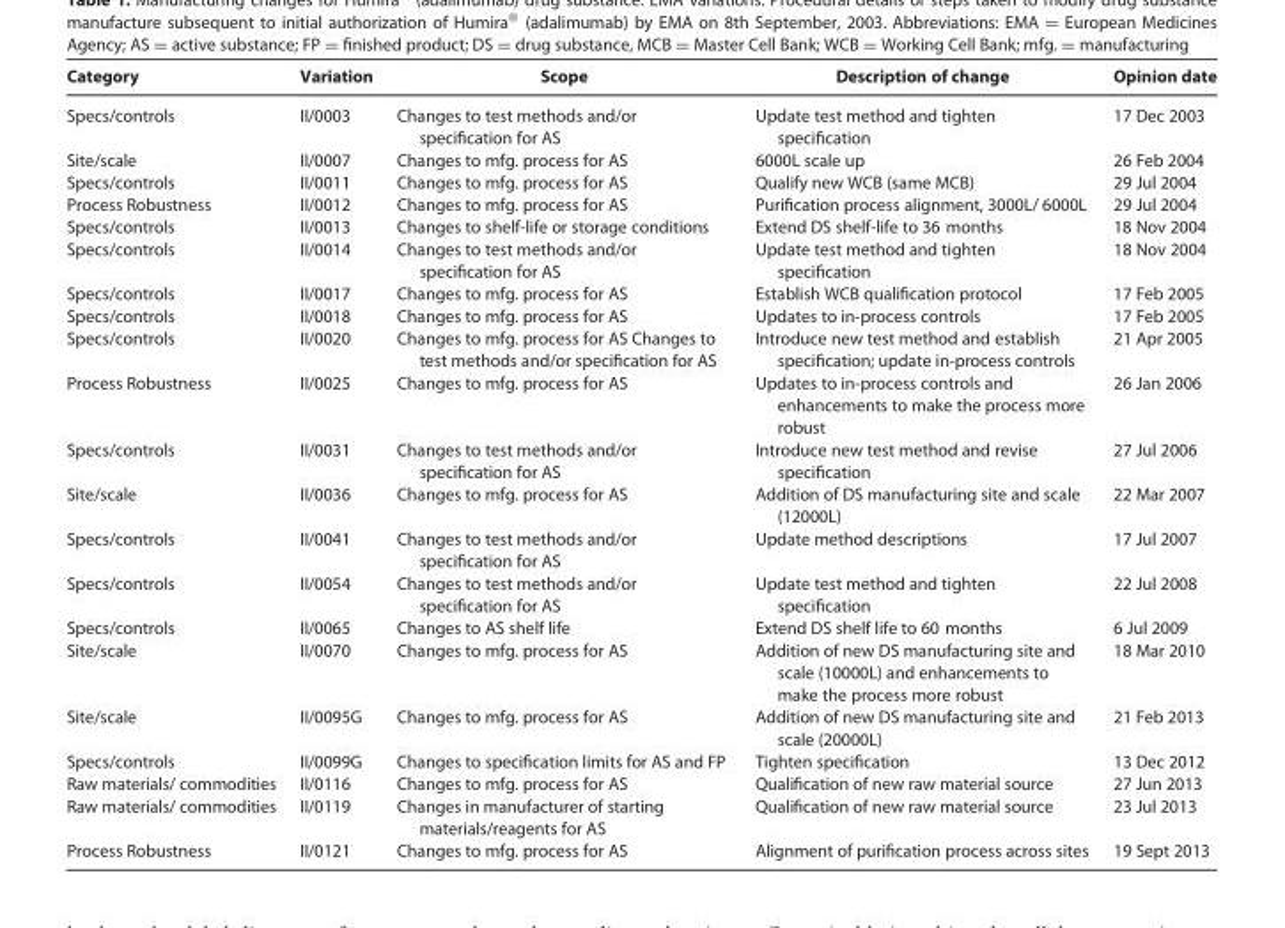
<table><thead><tr><td>Category</td><td>Variation</td><td>Scope</td><td>Description of change</td><td>Opinion date</td></tr></thead><tbody><tr><td>Specs/controls</td><td>II/0003</td><td>Changes to test methods and/or specification for AS</td><td>Update test method and tighten specification</td><td>17 Dec 2003</td></tr><tr><td>Site/scale</td><td>II/0007</td><td>Changes to mfg. process for AS</td><td>6000L scale up</td><td>26 Feb 2004</td></tr><tr><td>Specs/controls</td><td>II/0011</td><td>Changes to mfg. process for AS</td><td>Qualify new WCB (same MCB)</td><td>29 Jul 2004</td></tr><tr><td>Process Robustness</td><td>II/0012</td><td>Changes to mfg. process for AS</td><td>Purification process alignment, 3000L/ 6000L</td><td>29 Jul 2004</td></tr><tr><td>Specs/controls</td><td>II/0013</td><td>Changes to shelf-life or storage conditions</td><td>Extend DS shelf-life to 36 months</td><td>18 Nov 2004</td></tr><tr><td>Specs/controls</td><td>II/0014</td><td>Changes to test methods and/or specification for AS</td><td>Update test method and tighten specification</td><td>18 Nov 2004</td></tr><tr><td>Specs/controls</td><td>II/0017</td><td>Changes to mfg. process for AS</td><td>Establish WCB qualification protocol</td><td>17 Feb 2005</td></tr><tr><td>Specs/controls</td><td>II/0018</td><td>Changes to mfg. process for AS</td><td>Updates to in-process controls</td><td>17 Feb 2005</td></tr><tr><td>Specs/controls</td><td>II/0020</td><td>Changes to mfg. process for AS Changes to test methods and/or specification for AS</td><td>Introduce new test method and establish specification; update in-process controls</td><td>21 Apr 2005</td></tr><tr><td>Process Robustness</td><td>II/0025</td><td>Changes to mfg. process for AS</td><td>Updates to in-process controls and enhancements to make the process more robust</td><td>26 Jan 2006</td></tr><tr><td>Specs/controls</td><td>II/0031</td><td>Changes to test methods and/or specification for AS</td><td>Introduce new test method and revise specification</td><td>27 Jul 2006</td></tr><tr><td>Site/scale</td><td>II/0036</td><td>Changes to mfg. process for AS</td><td>Addition of DS manufacturing site and scale (12000L)</td><td>22 Mar 2007</td></tr><tr><td>Specs/controls</td><td>II/0041</td><td>Changes to test methods and/or specification for AS</td><td>Update method descriptions</td><td>17 Jul 2007</td></tr><tr><td>Specs/controls</td><td>II/0054</td><td>Changes to test methods and/or specification for AS</td><td>Update test method and tighten specification</td><td>22 Jul 2008</td></tr><tr><td>Specs/controls</td><td>II/0065</td><td>Changes to AS shelf life</td><td>Extend DS shelf life to 60 months</td><td>6 Jul 2009</td></tr><tr><td>Site/scale</td><td>II/0070</td><td>Changes to mfg. process for AS</td><td>Addition of new DS manufacturing site and scale (10000L) and enhancements to make the process more robust</td><td>18 Mar 2010</td></tr><tr><td>Site/scale</td><td>II/0095G</td><td>Changes to mfg. process for AS</td><td>Addition of new DS manufacturing site and scale (20000L)</td><td>21 Feb 2013</td></tr><tr><td>Specs/controls</td><td>II/0099G</td><td>Changes to specification limits for AS and FP</td><td>Tighten specification</td><td>13 Dec 2012</td></tr><tr><td>Raw materials/ commodities</td><td>II/0116</td><td>Changes to mfg. process for AS</td><td>Qualification of new raw material source</td><td>27 Jun 2013</td></tr><tr><td>Raw materials/ commodities</td><td>II/0119</td><td>Changes in manufacturer of starting materials/reagents for AS</td><td>Qualification of new raw material source</td><td>23 Jul 2013</td></tr><tr><td>Process Robustness</td><td>II/0121</td><td>Changes to mfg. process for AS</td><td>Alignment of purification process across sites</td><td>19 Sept 2013</td></tr></tbody></table>